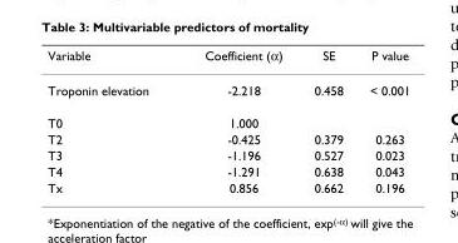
<table><thead><tr><td>Variable</td><td>Coefficient (α)</td><td>SE</td><td>P value</td></tr></thead><tbody><tr><td>Troponin elevation</td><td>-2.218</td><td>0.458</td><td>&lt; 0.001</td></tr><tr><td>T0</td><td>1.000</td><td></td><td></td></tr><tr><td>T2</td><td>-0.425</td><td>0.379</td><td>0.263</td></tr><tr><td>T3</td><td>-1.196</td><td>0.527</td><td>0.023</td></tr><tr><td>T4</td><td>-1.291</td><td>0.638</td><td>0.043</td></tr><tr><td>Tx</td><td>0.856</td><td>0.662</td><td>0.196</td></tr></tbody></table>